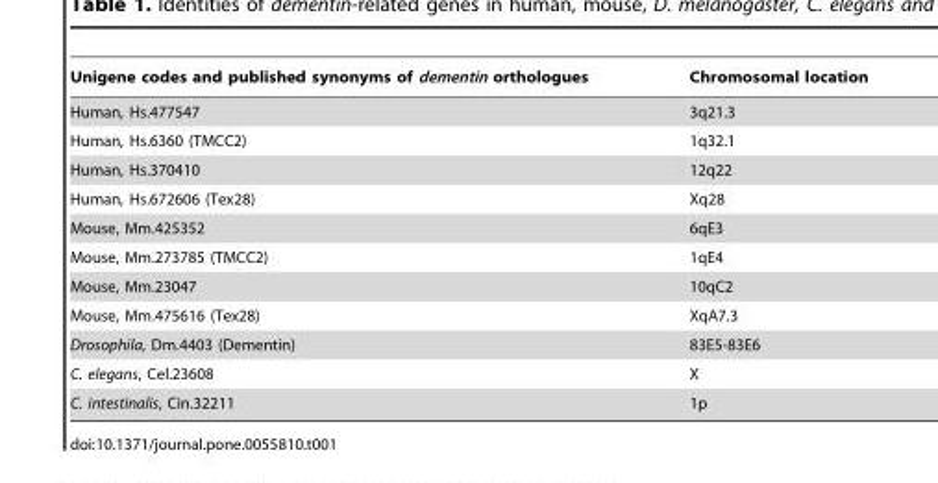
<table><thead><tr><td>Unigene codes and published synonyms of dementin orthologues</td><td>Chromosomal location</td></tr></thead><tbody><tr><td>Human, Hs.477547</td><td>3q21.3</td></tr><tr><td>Human, Hs.6360 (TMCC2)</td><td>1q32.1</td></tr><tr><td>Human, Hs.370410</td><td>12q22</td></tr><tr><td>Human, Hs.672606 (Tex28)</td><td>Xq28</td></tr><tr><td>Mouse, Mm.425352</td><td>6qE3</td></tr><tr><td>Mouse, Mm.273785 (TMCC2)</td><td>1qE4</td></tr><tr><td>Mouse, Mm.23047</td><td>10qC2</td></tr><tr><td>Mouse, Mm.475616 (Tex28)</td><td>XqA7.3</td></tr><tr><td>Drosophila, Dm.4403 (Dementin)</td><td>83E5-83E6</td></tr><tr><td>C. elegans, Cel.23608</td><td>X</td></tr><tr><td>C. intestinalis, Cin.32211</td><td>1p</td></tr></tbody></table>